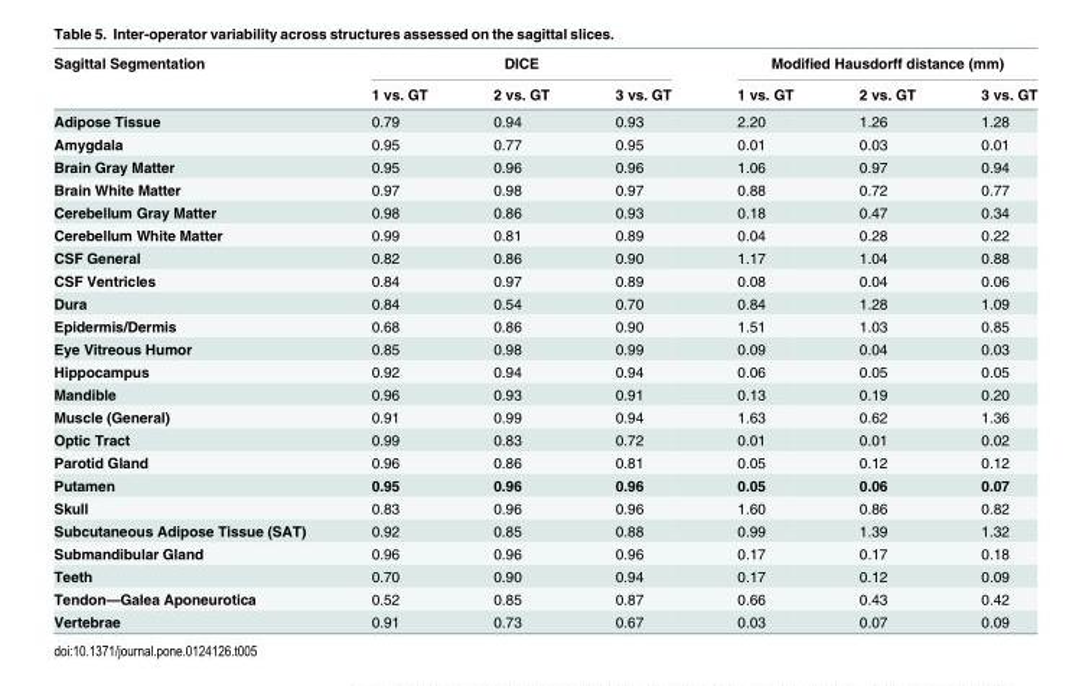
<table><thead><tr><td rowspan="2">Sagittal Segmentation</td><td colspan="3">DICE</td><td colspan="3">Modified Hausdorff distance (mm)</td></tr><tr><td>1 vs. GT</td><td>2 vs. GT</td><td>3 vs. GT</td><td>1 vs. GT</td><td>2 vs. GT</td><td>3 vs. GT</td></tr></thead><tbody><tr><td>Adipose Tissue</td><td>0.79</td><td>0.94</td><td>0.93</td><td>2.20</td><td>1.26</td><td>1.28</td></tr><tr><td>Amygdala</td><td>0.95</td><td>0.77</td><td>0.95</td><td>0.01</td><td>0.03</td><td>0.01</td></tr><tr><td>Brain Gray Matter</td><td>0.95</td><td>0.96</td><td>0.96</td><td>1.06</td><td>0.97</td><td>0.94</td></tr><tr><td>Brain White Matter</td><td>0.97</td><td>0.98</td><td>0.97</td><td>0.88</td><td>0.72</td><td>0.77</td></tr><tr><td>Cerebellum Gray Matter</td><td>0.98</td><td>0.86</td><td>0.93</td><td>0.18</td><td>0.47</td><td>0.34</td></tr><tr><td>Cerebellum White Matter</td><td>0.99</td><td>0.81</td><td>0.89</td><td>0.04</td><td>0.28</td><td>0.22</td></tr><tr><td>CSF General</td><td>0.82</td><td>0.86</td><td>0.90</td><td>1.17</td><td>1.04</td><td>0.88</td></tr><tr><td>CSF Ventricles</td><td>0.84</td><td>0.97</td><td>0.89</td><td>0.08</td><td>0.04</td><td>0.06</td></tr><tr><td>Dura</td><td>0.84</td><td>0.54</td><td>0.70</td><td>0.84</td><td>1.28</td><td>1.09</td></tr><tr><td>Epidermis/Dermis</td><td>0.68</td><td>0.86</td><td>0.90</td><td>1.51</td><td>1.03</td><td>0.85</td></tr><tr><td>Eye Vitreous Humor</td><td>0.85</td><td>0.98</td><td>0.99</td><td>0.09</td><td>0.04</td><td>0.03</td></tr><tr><td>Hippocampus</td><td>0.92</td><td>0.94</td><td>0.94</td><td>0.06</td><td>0.05</td><td>0.05</td></tr><tr><td>Mandible</td><td>0.96</td><td>0.93</td><td>0.91</td><td>0.13</td><td>0.19</td><td>0.20</td></tr><tr><td>Muscle (General)</td><td>0.91</td><td>0.99</td><td>0.94</td><td>1.63</td><td>0.62</td><td>1.36</td></tr><tr><td>Optic Tract</td><td>0.99</td><td>0.83</td><td>0.72</td><td>0.01</td><td>0.01</td><td>0.02</td></tr><tr><td>Parotid Gland</td><td>0.96</td><td>0.86</td><td>0.81</td><td>0.05</td><td>0.12</td><td>0.12</td></tr><tr><td>Putamen</td><td>0.95</td><td>0.96</td><td>0.96</td><td>0.05</td><td>0.06</td><td>0.07</td></tr><tr><td>Skull</td><td>0.83</td><td>0.96</td><td>0.96</td><td>1.60</td><td>0.86</td><td>0.82</td></tr><tr><td>Subcutaneous Adipose Tissue (SAT)</td><td>0.92</td><td>0.85</td><td>0.88</td><td>0.99</td><td>1.39</td><td>1.32</td></tr><tr><td>Submandibular Gland</td><td>0.96</td><td>0.96</td><td>0.96</td><td>0.17</td><td>0.17</td><td>0.18</td></tr><tr><td>Teeth</td><td>0.70</td><td>0.90</td><td>0.94</td><td>0.17</td><td>0.12</td><td>0.09</td></tr><tr><td>Tendon—Galea Aponeurotica</td><td>0.52</td><td>0.85</td><td>0.87</td><td>0.66</td><td>0.43</td><td>0.42</td></tr><tr><td>Vertebrae</td><td>0.91</td><td>0.73</td><td>0.67</td><td>0.03</td><td>0.07</td><td>0.09</td></tr></tbody></table>